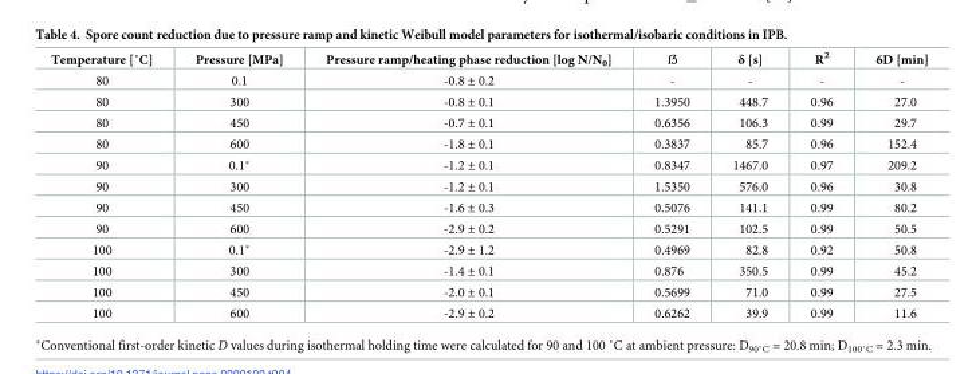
<table><thead><tr><td>Temperature [˚C]</td><td>Pressure [MPa]</td><td>Pressure ramp/heating phase reduction [log N/N<sub>0</sub>]</td><td>ẞ</td><td>δ [s]</td><td>R<sup>2</sup></td><td>6D [min]</td></tr></thead><tbody><tr><td>80</td><td>0.1</td><td>-0.8 ± 0.2</td><td>-</td><td>-</td><td>-</td><td>-</td></tr><tr><td>80</td><td>300</td><td>-0.8 ± 0.1</td><td>1.3950</td><td>448.7</td><td>0.96</td><td>27.0</td></tr><tr><td>80</td><td>450</td><td>-0.7 ± 0.1</td><td>0.6356</td><td>106.3</td><td>0.99</td><td>29.7</td></tr><tr><td>80</td><td>600</td><td>-1.8 ± 0.1</td><td>0.3837</td><td>85.7</td><td>0.96</td><td>152.4</td></tr><tr><td>90</td><td>0.1*</td><td>-1.2 ± 0.1</td><td>0.8347</td><td>1467.0</td><td>0.97</td><td>209.2</td></tr><tr><td>90</td><td>300</td><td>-1.2 ± 0.1</td><td>1.5350</td><td>576.0</td><td>0.96</td><td>30.8</td></tr><tr><td>90</td><td>450</td><td>-1.6 ± 0.3</td><td>0.5076</td><td>141.1</td><td>0.99</td><td>80.2</td></tr><tr><td>90</td><td>600</td><td>-2.9 ± 0.2</td><td>0.5291</td><td>102.5</td><td>0.99</td><td>50.5</td></tr><tr><td>100</td><td>0.1*</td><td>-2.9 ± 1.2</td><td>0.4969</td><td>82.8</td><td>0.92</td><td>50.8</td></tr><tr><td>100</td><td>300</td><td>-1.4 ± 0.1</td><td>0.876</td><td>350.5</td><td>0.99</td><td>45.2</td></tr><tr><td>100</td><td>450</td><td>-2.0 ± 0.1</td><td>0.5699</td><td>71.0</td><td>0.99</td><td>27.5</td></tr><tr><td>100</td><td>600</td><td>-2.9 ± 0.2</td><td>0.6262</td><td>39.9</td><td>0.99</td><td>11.6</td></tr></tbody></table>